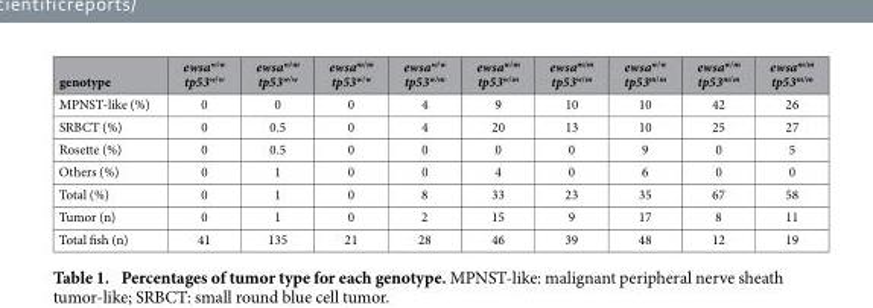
<table><thead><tr><td>genotype</td><td>ewsa<sup>w/w</sup> tp53<sup>w/w</sup></td><td>ewsa<sup>w/m</sup> tp53<sup>w/w</sup></td><td>ewsa<sup>m/m</sup> tp53<sup>w/w</sup></td><td>ewsa<sup>w/w</sup> tp53<sup>w/m</sup></td><td>ewsa<sup>w/m</sup> tp53<sup>w/m</sup></td><td>ewsa<sup>m/m</sup> tp53<sup>w/m</sup></td><td>ewsa<sup>w/w</sup> tp53<sup>m/m</sup></td><td>ewsa<sup>w/m</sup> tp53<sup>m/m</sup></td><td>ewsa<sup>m/m</sup> tp53<sup>m/m</sup></td></tr></thead><tbody><tr><td>MPNST-like (%)</td><td>0</td><td>0</td><td>0</td><td>4</td><td>9</td><td>10</td><td>10</td><td>42</td><td>26</td></tr><tr><td>SRBCT (%)</td><td>0</td><td>0.5</td><td>0</td><td>4</td><td>20</td><td>13</td><td>10</td><td>25</td><td>27</td></tr><tr><td>Rosette (%)</td><td>0</td><td>0.5</td><td>0</td><td>0</td><td>0</td><td>0</td><td>9</td><td>0</td><td>5</td></tr><tr><td>Others (%)</td><td>0</td><td>1</td><td>0</td><td>0</td><td>4</td><td>0</td><td>6</td><td>0</td><td>0</td></tr><tr><td>Total (%)</td><td>0</td><td>1</td><td>0</td><td>8</td><td>33</td><td>23</td><td>35</td><td>67</td><td>58</td></tr><tr><td>Tumor (n)</td><td>0</td><td>1</td><td>0</td><td>2</td><td>15</td><td>9</td><td>17</td><td>8</td><td>11</td></tr><tr><td>Total fish (n)</td><td>41</td><td>135</td><td>21</td><td>28</td><td>46</td><td>39</td><td>48</td><td>12</td><td>19</td></tr></tbody></table>